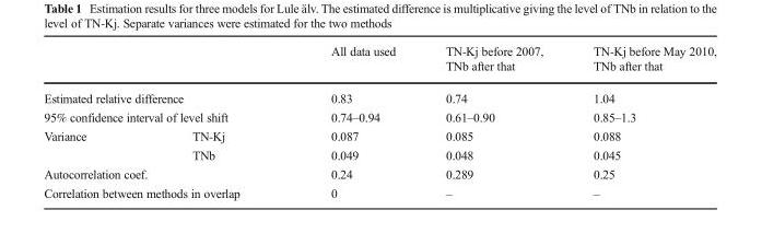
<table><thead><tr><td></td><td></td><td>All data used</td><td>TN-Kj before 2007, TNb after that</td><td>TN-Kj before May 2010, TNb after that</td></tr></thead><tbody><tr><td colspan="2">Estimated relative difference</td><td>0.83</td><td>0.74</td><td>1.04</td></tr><tr><td colspan="2">95% confidence interval of level shift</td><td>0.74–0.94</td><td>0.61–0.90</td><td>0.85–1.3</td></tr><tr><td rowspan="2">Variance</td><td>TN-Kj</td><td>0.087</td><td>0.085</td><td>0.088</td></tr><tr><td>TNb</td><td>0.049</td><td>0.048</td><td>0.045</td></tr><tr><td colspan="2">Autocorrelation coef.</td><td>0.24</td><td>0.289</td><td>0.25</td></tr><tr><td colspan="2">Correlation between methods in overlap</td><td>0</td><td>–</td><td>–</td></tr></tbody></table>